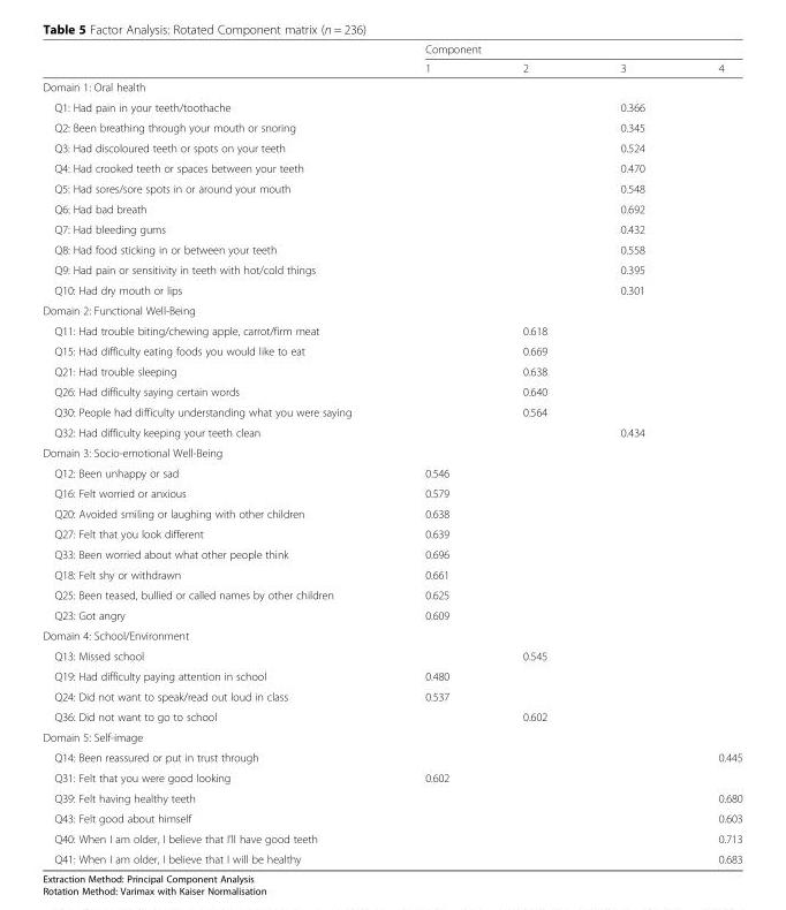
<table><thead><tr><td rowspan="2"></td><td colspan="4">Component</td></tr><tr><td>1</td><td>2</td><td>3</td><td>4</td></tr></thead><tbody><tr><td colspan="5">Domain 1: Oral health</td></tr><tr><td>Q1: Had pain in your teeth/toothache</td><td></td><td></td><td>0.366</td><td></td></tr><tr><td>Q2: Been breathing through your mouth or snoring</td><td></td><td></td><td>0.345</td><td></td></tr><tr><td>Q3: Had discoloured teeth or spots on your teeth</td><td></td><td></td><td>0.524</td><td></td></tr><tr><td>Q4: Had crooked teeth or spaces between your teeth</td><td></td><td></td><td>0.470</td><td></td></tr><tr><td>Q5: Had sores/sore spots in or around your mouth</td><td></td><td></td><td>0.548</td><td></td></tr><tr><td>Q6: Had bad breath</td><td></td><td></td><td>0.692</td><td></td></tr><tr><td>Q7: Had bleeding gums</td><td></td><td></td><td>0.432</td><td></td></tr><tr><td>Q8: Had food sticking in or between your teeth</td><td></td><td></td><td>0.558</td><td></td></tr><tr><td>Q9: Had pain or sensitivity in teeth with hot/cold things</td><td></td><td></td><td>0.395</td><td></td></tr><tr><td>Q10: Had dry mouth or lips</td><td></td><td></td><td>0.301</td><td></td></tr><tr><td colspan="5">Domain 2: Functional Well-Being</td></tr><tr><td>Q11: Had trouble biting/chewing apple, carrot/firm meat</td><td></td><td>0.618</td><td></td><td></td></tr><tr><td>Q15: Had difficulty eating foods you would like to eat</td><td></td><td>0.669</td><td></td><td></td></tr><tr><td>Q21: Had trouble sleeping</td><td></td><td>0.638</td><td></td><td></td></tr><tr><td>Q26: Had difficulty saying certain words</td><td></td><td>0.640</td><td></td><td></td></tr><tr><td>Q30: People had difficulty understanding what you were saying</td><td></td><td>0.564</td><td></td><td></td></tr><tr><td>Q32: Had difficulty keeping your teeth clean</td><td></td><td></td><td>0.434</td><td></td></tr><tr><td colspan="5">Domain 3: Socio-emotional Well-Being</td></tr><tr><td>Q12: Been unhappy or sad</td><td>0.546</td><td></td><td></td><td></td></tr><tr><td>Q16: Felt worried or anxious</td><td>0.579</td><td></td><td></td><td></td></tr><tr><td>Q20: Avoided smiling or laughing with other children</td><td>0.638</td><td></td><td></td><td></td></tr><tr><td>Q27: Felt that you look different</td><td>0.639</td><td></td><td></td><td></td></tr><tr><td>Q33: Been worried about what other people think</td><td>0.696</td><td></td><td></td><td></td></tr><tr><td>Q18: Felt shy or withdrawn</td><td>0.661</td><td></td><td></td><td></td></tr><tr><td>Q25: Been teased, bullied or called names by other children</td><td>0.625</td><td></td><td></td><td></td></tr><tr><td>Q23: Got angry</td><td>0.609</td><td></td><td></td><td></td></tr><tr><td colspan="5">Domain 4: School/Environment</td></tr><tr><td>Q13: Missed school</td><td></td><td>0.545</td><td></td><td></td></tr><tr><td>Q19: Had difficulty paying attention in school</td><td>0.480</td><td></td><td></td><td></td></tr><tr><td>Q24: Did not want to speak/read out loud in class</td><td>0.537</td><td></td><td></td><td></td></tr><tr><td>Q36: Did not want to go to school</td><td></td><td>0.602</td><td></td><td></td></tr><tr><td colspan="5">Domain 5: Self-image</td></tr><tr><td>Q14: Been reassured or put in trust through</td><td></td><td></td><td></td><td>0.445</td></tr><tr><td>Q31: Felt that you were good looking</td><td>0.602</td><td></td><td></td><td></td></tr><tr><td>Q39: Felt having healthy teeth</td><td></td><td></td><td></td><td>0.680</td></tr><tr><td>Q43: Felt good about himself</td><td></td><td></td><td></td><td>0.603</td></tr><tr><td>Q40: When I am older, I believe that I’ll have good teeth</td><td></td><td></td><td></td><td>0.713</td></tr><tr><td>Q41: When I am older, I believe that I will be healthy</td><td></td><td></td><td></td><td>0.683</td></tr></tbody></table>